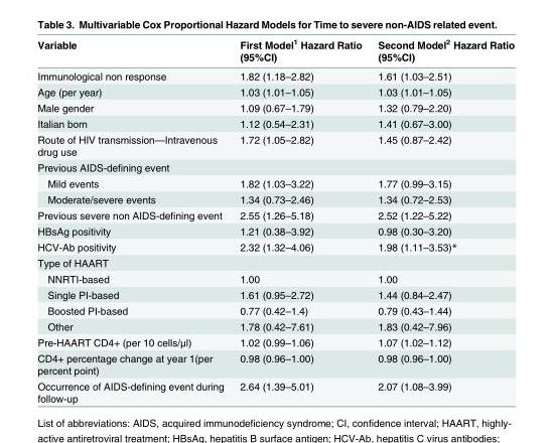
<table><thead><tr><td>Variable</td><td>First Model<sup>1</sup> Hazard Ratio (95%CI)</td><td>Second Model<sup>2</sup> Hazard Ratio (95%CI)</td></tr></thead><tbody><tr><td>Immunological non response</td><td>1.82 (1.18–2.82)</td><td>1.61 (1.03–2.51)</td></tr><tr><td>Age (per year)</td><td>1.03 (1.01–1.05)</td><td>1.03 (1.01–1.05)</td></tr><tr><td>Male gender</td><td>1.09 (0.67–1.79)</td><td>1.32 (0.79–2.20)</td></tr><tr><td>Italian born</td><td>1.12 (0.54–2.31)</td><td>1.41 (0.67–3.00)</td></tr><tr><td>Route of HIV transmission—Intravenous drug use</td><td>1.72 (1.05–2.82)</td><td>1.45 (0.87–2.42)</td></tr><tr><td colspan="3">Previous AIDS-defining event</td></tr><tr><td>Mild events</td><td>1.82 (1.03–3.22)</td><td>1.77 (0.99–3.15)</td></tr><tr><td>Moderate/severe events</td><td>1.34 (0.73–2.46)</td><td>1.34 (0.72–2.53)</td></tr><tr><td>Previous severe non AIDS-defining event</td><td>2.55 (1.26–5.18)</td><td>2.52 (1.22–5.22)</td></tr><tr><td>HBsAg positivity</td><td>1.21 (0.38–3.92)</td><td>0.98 (0.30–3.20)</td></tr><tr><td>HCV-Ab positivity</td><td>2.32 (1.32–4.06)</td><td>1.98 (1.11–3.53)*</td></tr><tr><td colspan="3">Type of HAART</td></tr><tr><td>NNRTI-based</td><td>1.00</td><td>1.00</td></tr><tr><td>Single PI-based</td><td>1.61 (0.95–2.72)</td><td>1.44 (0.84–2.47)</td></tr><tr><td>Boosted PI-based</td><td>0.77 (0.42–1.4)</td><td>0.79 (0.43–1.44)</td></tr><tr><td>Other</td><td>1.78 (0.42–7.61)</td><td>1.83 (0.42–7.96)</td></tr><tr><td>Pre-HAART CD4+ (per 10 cells/μl)</td><td>1.02 (0.99–1.06)</td><td>1.07 (1.02–1.12)</td></tr><tr><td>CD4+ percentage change at year 1(per percent point)</td><td>0.98 (0.96–1.00)</td><td>0.98 (0.96–1.00)</td></tr><tr><td>Occurrence of AIDS-defining event during follow-up</td><td>2.64 (1.39–5.01)</td><td>2.07 (1.08–3.99)</td></tr></tbody></table>